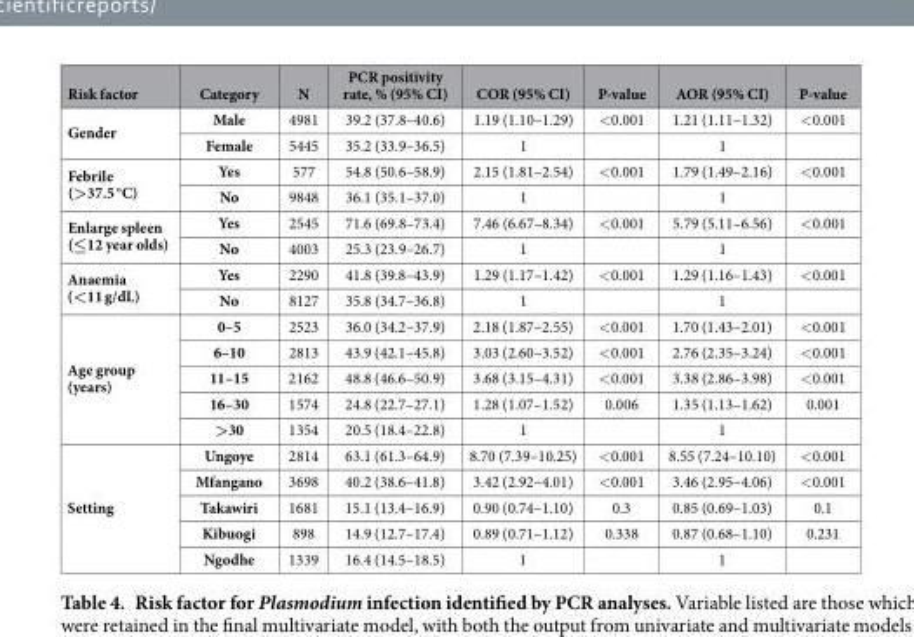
<table><thead><tr><td>Risk factor</td><td>Category</td><td>N</td><td>PCR positivity rate, % (95% CI)</td><td>COR (95% CI)</td><td>P-value</td><td>AOR (95% CI)</td><td>P-value</td></tr></thead><tbody><tr><td rowspan="2">Gender</td><td>Male</td><td>4981</td><td>39.2 (37.8–40.6)</td><td>1.19 (1.10–1.29)</td><td>&lt; 0.001</td><td>1.21 (1.11–1.32)</td><td>&lt; 0.001</td></tr><tr><td>Female</td><td>5445</td><td>35.2 (33.9–36.5)</td><td>1</td><td></td><td>1</td><td></td></tr><tr><td rowspan="2">Febrile (&gt;37.5 °C)</td><td>Yes</td><td>577</td><td>54.8 (50.6–58.9)</td><td>2.15 (1.81–2.54)</td><td>&lt; 0.001</td><td>1.79 (1.49–2.16)</td><td>&lt; 0.001</td></tr><tr><td>No</td><td>9848</td><td>36.1 (35.1–37.0)</td><td>1</td><td></td><td>1</td><td></td></tr><tr><td rowspan="2">Enlarge spleen (≤12 year olds)</td><td>Yes</td><td>2545</td><td>71.6 (69.8–73.4)</td><td>7.46 (6.67–8.34)</td><td>&lt; 0.001</td><td>5.79 (5.11–6.56)</td><td>&lt; 0.001</td></tr><tr><td>No</td><td>4003</td><td>25.3 (23.9–26.7)</td><td>1</td><td></td><td>1</td><td></td></tr><tr><td rowspan="2">Anaemia (&lt;11 g/dL)</td><td>Yes</td><td>2290</td><td>41.8 (39.8–43.9)</td><td>1.29 (1.17–1.42)</td><td>&lt; 0.001</td><td>1.29 (1.16–1.43)</td><td>&lt; 0.001</td></tr><tr><td>No</td><td>8127</td><td>35.8 (34.7–36.8)</td><td>1</td><td></td><td>1</td><td></td></tr><tr><td rowspan="5">Age group (years)</td><td>0–5</td><td>2523</td><td>36.0 (34.2–37.9)</td><td>2.18 (1.87–2.55)</td><td>&lt; 0.001</td><td>1.70 (1.43–2.01)</td><td>&lt; 0.001</td></tr><tr><td>6–10</td><td>2813</td><td>43.9 (42.1–45.8)</td><td>3.03 (2.60–3.52)</td><td>&lt; 0.001</td><td>2.76 (2.35–3.24)</td><td>&lt; 0.001</td></tr><tr><td>11–15</td><td>2162</td><td>48.8 (46.6–50.9)</td><td>3.68 (3.15–4.31)</td><td>&lt; 0.001</td><td>3.38 (2.86–3.98)</td><td>&lt; 0.001</td></tr><tr><td>16–30</td><td>1574</td><td>24.8 (22.7–27.1)</td><td>1.28 (1.07–1.52)</td><td>0.006</td><td>1.35 (1.13–1.62)</td><td>0.001</td></tr><tr><td>&gt;30</td><td>1354</td><td>20.5 (18.4–22.8)</td><td>1</td><td></td><td>1</td><td></td></tr><tr><td rowspan="5">Setting</td><td>Ungoye</td><td>2814</td><td>63.1 (61.3–64.9)</td><td>8.70 (7.39–10.25)</td><td>&lt; 0.001</td><td>8.55 (7.24–10.10)</td><td>&lt; 0.001</td></tr><tr><td>Mfangano</td><td>3698</td><td>40.2 (38.6–41.8)</td><td>3.42 (2.92–4.01)</td><td>&lt; 0.001</td><td>3.46 (2.95–4.06)</td><td>&lt; 0.001</td></tr><tr><td>Takawiri</td><td>1681</td><td>15.1 (13.4–16.9)</td><td>0.90 (0.74–1.10)</td><td>0.3</td><td>0.85 (0.69–1.03)</td><td>0.1</td></tr><tr><td>Kibuogi</td><td>898</td><td>14.9 (12.7–17.4)</td><td>0.89 (0.71–1.12)</td><td>0.338</td><td>0.87 (0.68–1.10)</td><td>0.231</td></tr><tr><td>Ngodhe</td><td>1339</td><td>16.4 (14.5–18.5)</td><td>1</td><td></td><td>1</td><td></td></tr></tbody></table>